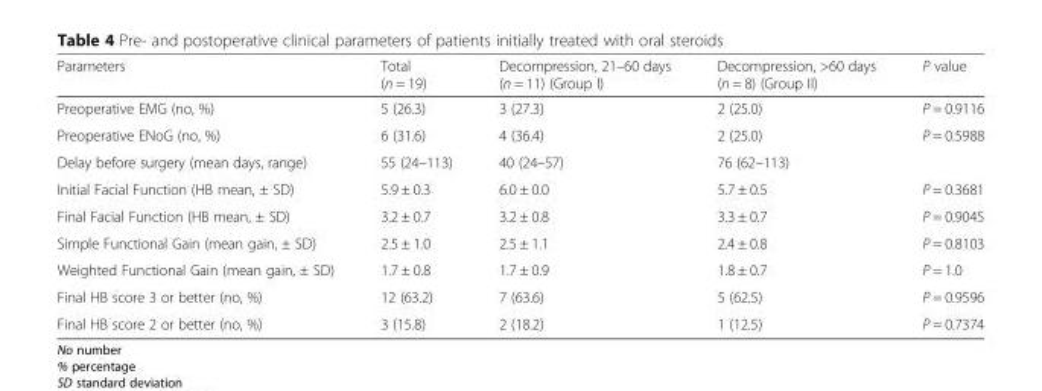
<table><thead><tr><td>Parameters</td><td>Total (n = 19)</td><td>Decompression, 21–60 days (n = 11) (Group I)</td><td>Decompression, &gt;60 days (n = 8) (Group II)</td><td>P value</td></tr></thead><tbody><tr><td>Preoperative EMG (no, %)</td><td>5 (26.3)</td><td>3 (27.3)</td><td>2 (25.0)</td><td>P = 0.9116</td></tr><tr><td>Preoperative ENoG (no, %)</td><td>6 (31.6)</td><td>4 (36.4)</td><td>2 (25.0)</td><td>P = 0.5988</td></tr><tr><td>Delay before surgery (mean days, range)</td><td>55 (24–113)</td><td>40 (24–57)</td><td>76 (62–113)</td><td></td></tr><tr><td>Initial Facial Function (HB mean, ± SD)</td><td>5.9 ± 0.3</td><td>6.0 ± 0.0</td><td>5.7 ± 0.5</td><td>P = 0.3681</td></tr><tr><td>Final Facial Function (HB mean, ± SD)</td><td>3.2 ± 0.7</td><td>3.2 ± 0.8</td><td>3.3 ± 0.7</td><td>P = 0.9045</td></tr><tr><td>Simple Functional Gain (mean gain, ± SD)</td><td>2.5 ± 1.0</td><td>2.5 ± 1.1</td><td>2.4 ± 0.8</td><td>P = 0.8103</td></tr><tr><td>Weighted Functional Gain (mean gain, ± SD)</td><td>1.7 ± 0.8</td><td>1.7 ± 0.9</td><td>1.8 ± 0.7</td><td>P = 1.0</td></tr><tr><td>Final HB score 3 or better (no, %)</td><td>12 (63.2)</td><td>7 (63.6)</td><td>5 (62.5)</td><td>P = 0.9596</td></tr><tr><td>Final HB score 2 or better (no, %)</td><td>3 (15.8)</td><td>2 (18.2)</td><td>1 (12.5)</td><td>P = 0.7374</td></tr></tbody></table>